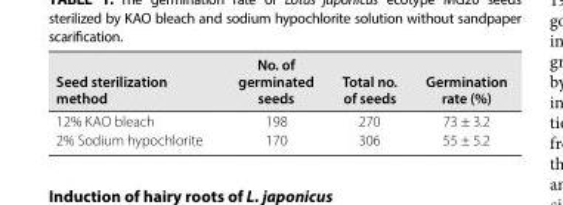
<table><thead><tr><td>Seed sterilization method</td><td>No. of germinated seeds</td><td>Total no. of seeds</td><td>Germination rate (%)</td></tr></thead><tbody><tr><td>12% KAO bleach</td><td>198</td><td>270</td><td>73 ± 3.2</td></tr><tr><td>2% Sodium hypochlorite</td><td>170</td><td>306</td><td>55 ± 5.2</td></tr></tbody></table>